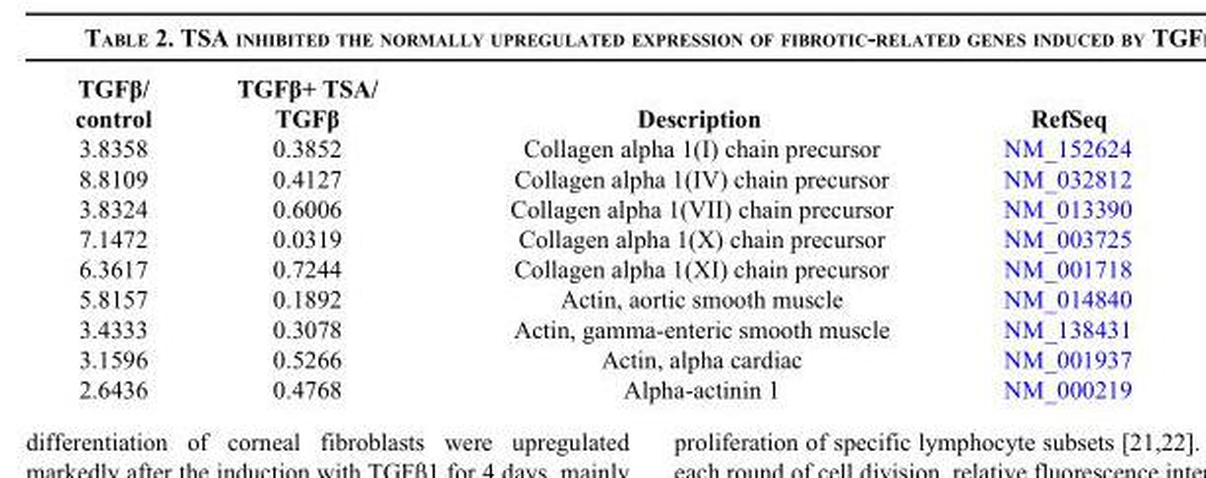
<table><thead><tr><td>TGFβ/ control</td><td>TGFβ+ TSA/ TGFβ</td><td>Description</td><td>RefSeq</td></tr></thead><tbody><tr><td>3.8358</td><td>0.3852</td><td>Collagen alpha 1(I) chain precursor</td><td>NM_152624</td></tr><tr><td>8.8109</td><td>0.4127</td><td>Collagen alpha 1(IV) chain precursor</td><td>NM_032812</td></tr><tr><td>3.8324</td><td>0.6006</td><td>Collagen alpha 1(VII) chain precursor</td><td>NM_013390</td></tr><tr><td>7.1472</td><td>0.0319</td><td>Collagen alpha 1(X) chain precursor</td><td>NM_003725</td></tr><tr><td>6.3617</td><td>0.7244</td><td>Collagen alpha 1(XI) chain precursor</td><td>NM_001718</td></tr><tr><td>5.8157</td><td>0.1892</td><td>Actin, aortic smooth muscle</td><td>NM_014840</td></tr><tr><td>3.4333</td><td>0.3078</td><td>Actin, gamma-enteric smooth muscle</td><td>NM_138431</td></tr><tr><td>3.1596</td><td>0.5266</td><td>Actin, alpha cardiac</td><td>NM_001937</td></tr><tr><td>2.6436</td><td>0.4768</td><td>Alpha-actinin 1</td><td>NM_000219</td></tr></tbody></table>